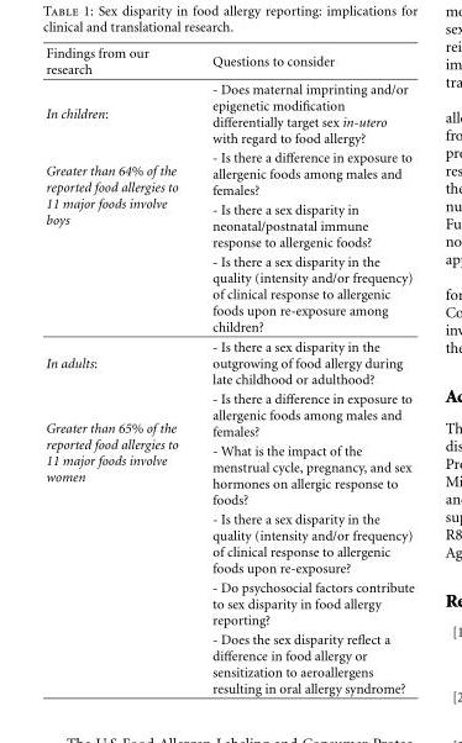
<table><thead><tr><td>Findings from our research</td><td>Questions to consider</td></tr></thead><tbody><tr><td>In children:</td><td>- Does maternal imprinting and/or epigenetic modification differentially target sex in-utero with regard to food allergy?</td></tr><tr><td rowspan="3">Greater than 64% of the reported food allergies to 11 major foods involve boys</td><td>- Is there a difference in exposure to allergenic foods among males and females?</td></tr><tr><td>- Is there a sex disparity in neonatal/postnatal immune response to allergenic foods?</td></tr><tr><td>- Is there a sex disparity in the quality (intensity and/or frequency) of clinical response to allergenic foods upon re-exposure among children?</td></tr><tr><td>In adults:</td><td>- Is there a sex disparity in the outgrowing of food allergy during late childhood or adulthood?</td></tr><tr><td rowspan="5">Greater than 65% of the reported food allergies to 11 major foods involve women</td><td>- Is there a difference in exposure to allergenic foods among males and females?</td></tr><tr><td>- What is the impact of the menstrual cycle, pregnancy, and sex hormones on allergic response to foods?</td></tr><tr><td>- Is there a sex disparity in the quality (intensity and/or frequency) of clinical response to allergenic foods upon re-exposure?</td></tr><tr><td>- Do psychosocial factors contribute to sex disparity in food allergy reporting?</td></tr><tr><td>- Does the sex disparity reflect a difference in food allergy or sensitization to aeroallergens resulting in oral allergy syndrome?</td></tr></tbody></table>